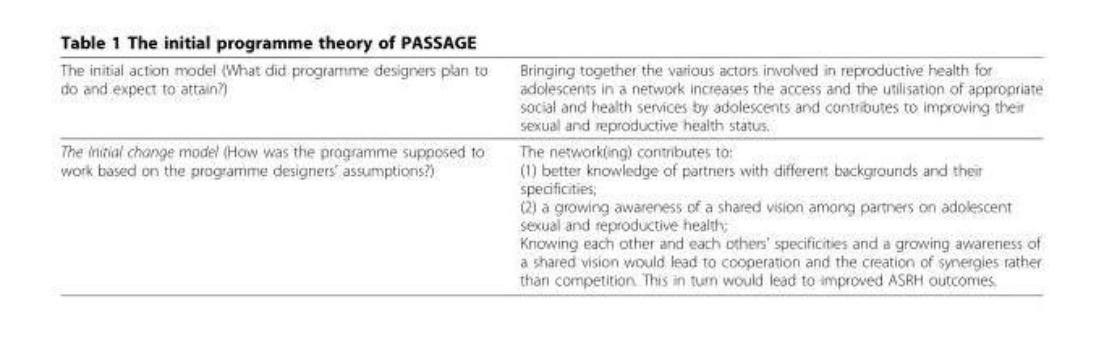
<table><thead><tr><td>The initial action model (What did programme designers plan to do and expect to attain?)</td><td>Bringing together the various actors involved in reproductive health for adolescents in a network increases the access and the utilisation of appropriate social and health services by adolescents and contributes to improving their sexual and reproductive health status.</td></tr></thead><tbody><tr><td>The Initial change model (How was the programme supposed to work based on the programme designers’ assumptions?)</td><td>The network(ing) contributes to: (1) better knowledge of partners with different backgrounds and their specificities; (2) a growing awareness of a shared vision among partners on adolescent sexual and reproductive health; Knowing each other and each others’ specificities and a growing awareness of a shared vision would lead to cooperation and the creation of synergies rather than competition. This in turn would lead to improved ASRH outcomes.</td></tr></tbody></table>